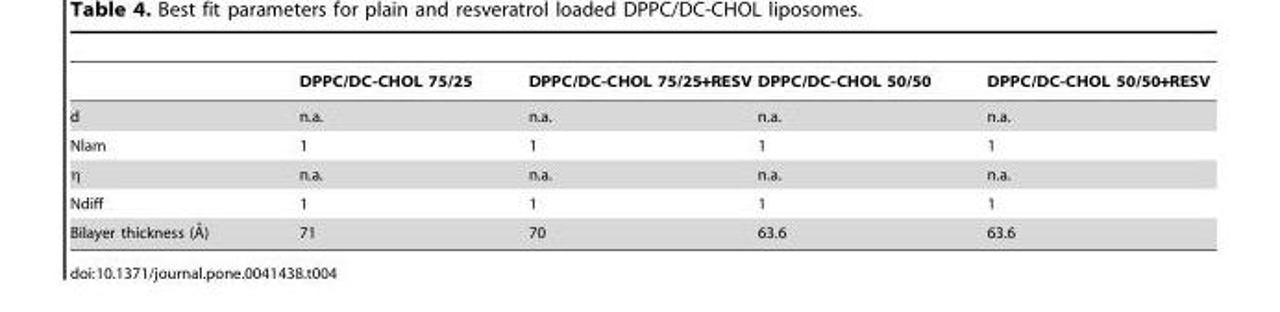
<table><thead><tr><td></td><td>DPPC/DC-CHOL 75/25</td><td>DPPC/DC-CHOL 75/25+RESV</td><td>DPPC/DC-CHOL 50/50</td><td>DPPC/DC-CHOL 50/50+RESV</td></tr></thead><tbody><tr><td>d</td><td>n.a.</td><td>n.a.</td><td>n.a.</td><td>n.a.</td></tr><tr><td>Nlam</td><td>1</td><td>1</td><td>1</td><td>1</td></tr><tr><td>η</td><td>n.a.</td><td>n.a.</td><td>n.a.</td><td>n.a.</td></tr><tr><td>Ndiff</td><td>1</td><td>1</td><td>1</td><td>1</td></tr><tr><td>Bilayer thickness (A˚)</td><td>71</td><td>70</td><td>63.6</td><td>63.6</td></tr></tbody></table>